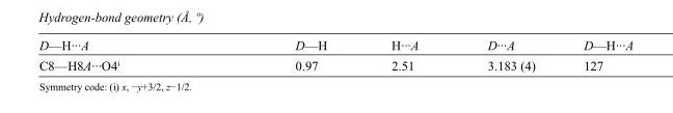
<table><tbody><tr><td>D—H···A</td><td>D—H</td><td>H···A</td><td>D···A</td><td>D—H···A</td></tr><tr><td>C8—H8A···O4<sup>i</sup></td><td>0.97</td><td>2.51</td><td>3.183 (4)</td><td>127</td></tr></tbody></table>